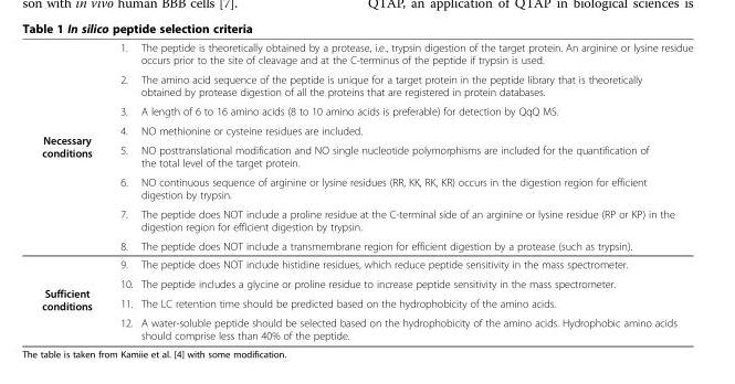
<table><tbody><tr><td rowspan="8">Necessary conditions</td><td>1.</td><td>The peptide is theoretically obtained by a protease, i.e., trypsin digestion of the target protein. An arginine or lysine residue occurs prior to the site of cleavage and at the C-terminus of the peptide if trypsin is used.</td></tr><tr><td>2.</td><td>The amino acid sequence of the peptide is unique for a target protein in the peptide library that is theoretically obtained by protease digestion of all the proteins that are registered in protein databases.</td></tr><tr><td>3.</td><td>A length of 6 to 16 amino acids (8 to 10 amino acids is preferable) for detection by QqQ MS.</td></tr><tr><td>4.</td><td>NO methionine or cysteine residues are included.</td></tr><tr><td>5.</td><td>NO posttranslational modification and NO single nucleotide polymorphisms are included for the quantification of the total level of the target protein.</td></tr><tr><td>6.</td><td>NO continuous sequence of arginine or lysine residues (RR, KK, RK, KR) occurs in the digestion region for efficient digestion by trypsin.</td></tr><tr><td>7.</td><td>The peptide does NOT include a proline residue at the C-terminal side of an arginine or lysine residue (RP or KP) in the digestion region for efficient digestion by trypsin.</td></tr><tr><td>8.</td><td>The peptide does NOT include a transmembrane region for efficient digestion by a protease (such as trypsin).</td></tr><tr><td rowspan="4">Sufficient conditions</td><td>9.</td><td>The peptide does NOT include histidine residues, which reduce peptide sensitivity in the mass spectrometer.</td></tr><tr><td>10.</td><td>The peptide includes a glycine or proline residue to increase peptide sensitivity in the mass spectrometer.</td></tr><tr><td>11.</td><td>The LC retention time should be predicted based on the hydrophobicity of the amino acids.</td></tr><tr><td>12.</td><td>A water-soluble peptide should be selected based on the hydrophobicity of the amino acids. Hydrophobic amino acids should comprise less than 40% of the peptide.</td></tr></tbody></table>